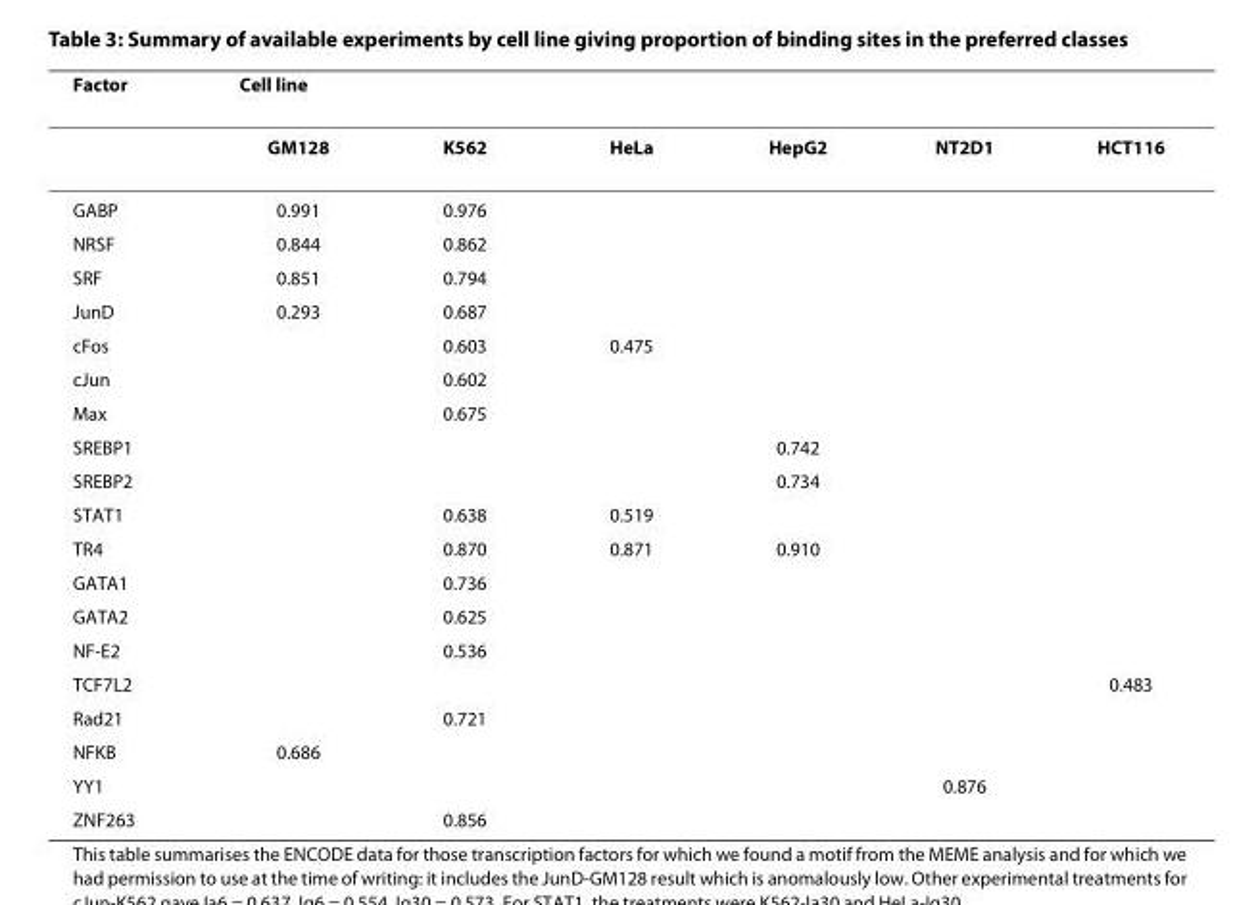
<table><thead><tr><td rowspan="2">Factor</td><td colspan="6">Cell line</td></tr><tr><td>GM128</td><td>K562</td><td>HeLa</td><td>HepG2</td><td>NT2D1</td><td>HCT116</td></tr></thead><tbody><tr><td>GABP</td><td>0.991</td><td>0.976</td><td></td><td></td><td></td><td></td></tr><tr><td>NRSF</td><td>0.844</td><td>0.862</td><td></td><td></td><td></td><td></td></tr><tr><td>SRF</td><td>0.851</td><td>0.794</td><td></td><td></td><td></td><td></td></tr><tr><td>JunD</td><td>0.293</td><td>0.687</td><td></td><td></td><td></td><td></td></tr><tr><td>cFos</td><td></td><td>0.603</td><td>0.475</td><td></td><td></td><td></td></tr><tr><td>cJun</td><td></td><td>0.602</td><td></td><td></td><td></td><td></td></tr><tr><td>Max</td><td></td><td>0.675</td><td></td><td></td><td></td><td></td></tr><tr><td>SREBP1</td><td></td><td></td><td></td><td>0.742</td><td></td><td></td></tr><tr><td>SREBP2</td><td></td><td></td><td></td><td>0.734</td><td></td><td></td></tr><tr><td>STAT1</td><td></td><td>0.638</td><td>0.519</td><td></td><td></td><td></td></tr><tr><td>TR4</td><td></td><td>0.870</td><td>0.871</td><td>0.910</td><td></td><td></td></tr><tr><td>GATA1</td><td></td><td>0.736</td><td></td><td></td><td></td><td></td></tr><tr><td>GATA2</td><td></td><td>0.625</td><td></td><td></td><td></td><td></td></tr><tr><td>NF-E2</td><td></td><td>0.536</td><td></td><td></td><td></td><td></td></tr><tr><td>TCF7L2</td><td></td><td></td><td></td><td></td><td></td><td>0.483</td></tr><tr><td>Rad21</td><td></td><td>0.721</td><td></td><td></td><td></td><td></td></tr><tr><td>NFKB</td><td>0.686</td><td></td><td></td><td></td><td></td><td></td></tr><tr><td>YY1</td><td></td><td></td><td></td><td></td><td>0.876</td><td></td></tr><tr><td>ZNF263</td><td></td><td>0.856</td><td></td><td></td><td></td><td></td></tr></tbody></table>